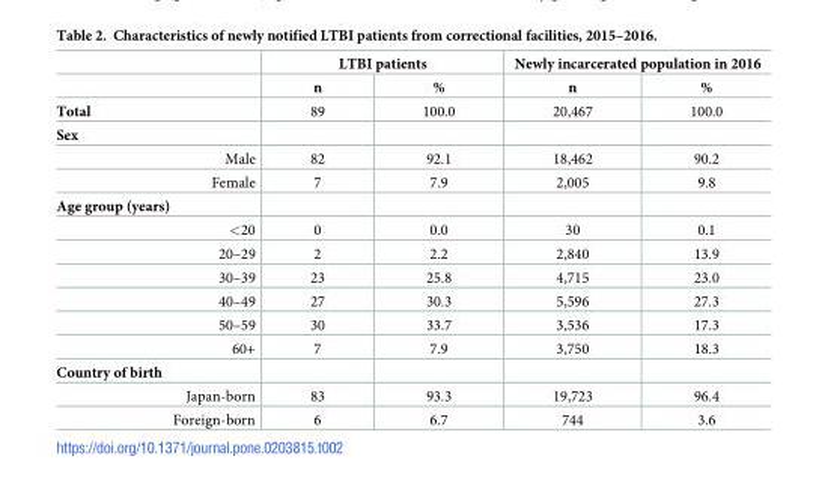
<table><thead><tr><td rowspan="2"></td><td colspan="2">LTBI patients</td><td colspan="2">Newly incarcerated population in 2016</td></tr><tr><td>n</td><td>%</td><td>n</td><td>%</td></tr></thead><tbody><tr><td>Total</td><td>89</td><td>100.0</td><td>20,467</td><td>100.0</td></tr><tr><td colspan="5">Sex</td></tr><tr><td>Male</td><td>82</td><td>92.1</td><td>18,462</td><td>90.2</td></tr><tr><td>Female</td><td>7</td><td>7.9</td><td>2,005</td><td>9.8</td></tr><tr><td colspan="5">Age group (years)</td></tr><tr><td>&lt;20</td><td>0</td><td>0.0</td><td>30</td><td>0.1</td></tr><tr><td>20–29</td><td>2</td><td>2.2</td><td>2,840</td><td>13.9</td></tr><tr><td>30–39</td><td>23</td><td>25.8</td><td>4,715</td><td>23.0</td></tr><tr><td>40–49</td><td>27</td><td>30.3</td><td>5,596</td><td>27.3</td></tr><tr><td>50–59</td><td>30</td><td>33.7</td><td>3,536</td><td>17.3</td></tr><tr><td>60+</td><td>7</td><td>7.9</td><td>3,750</td><td>18.3</td></tr><tr><td colspan="5">Country of birth</td></tr><tr><td>Japan-born</td><td>83</td><td>93.3</td><td>19,723</td><td>96.4</td></tr><tr><td>Foreign-born</td><td>6</td><td>6.7</td><td>744</td><td>3.6</td></tr></tbody></table>